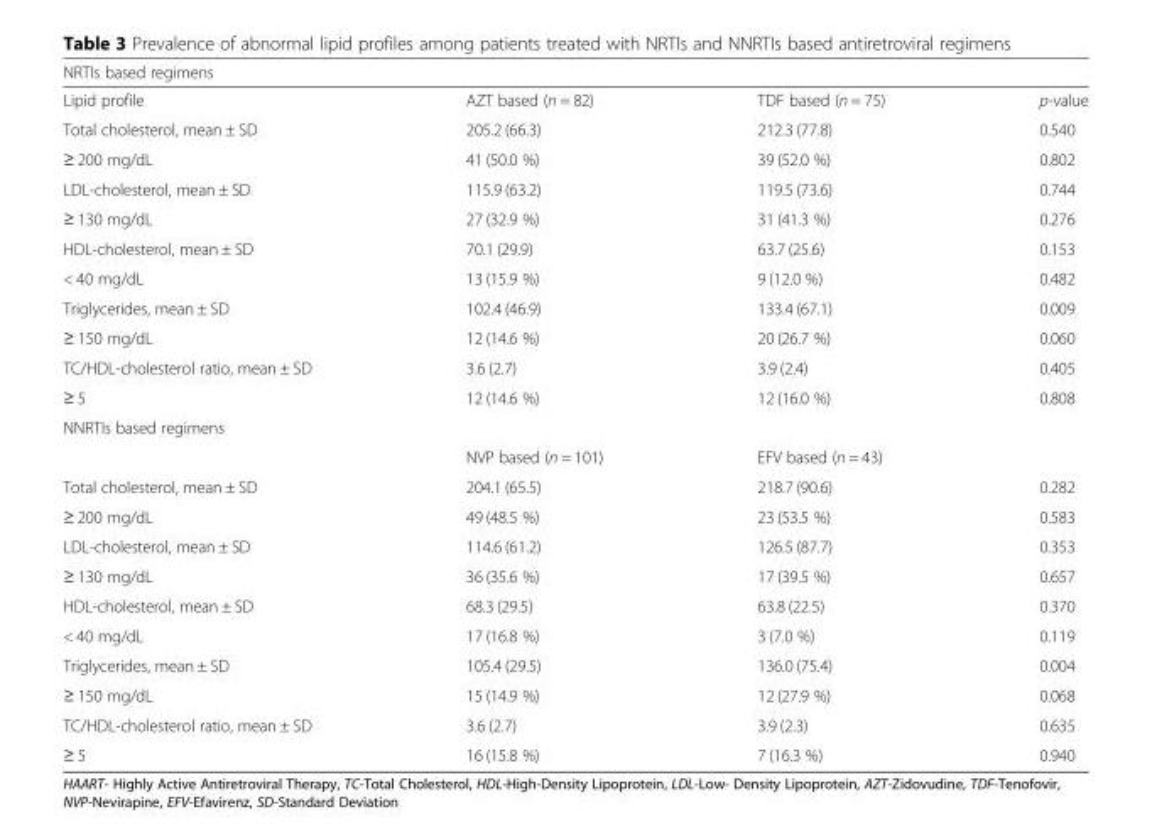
<table><thead><tr><td colspan="4">NRTIs based regimens</td></tr><tr><td>Lipid profile</td><td>AZT based (n = 82)</td><td>TDF based (n = 75)</td><td>p-value</td></tr></thead><tbody><tr><td>Total cholesterol, mean ± SD</td><td>205.2 (66.3)</td><td>212.3 (77.8)</td><td>0.540</td></tr><tr><td>≥ 200 mg/dL</td><td>41 (50.0 %)</td><td>39 (52.0 %)</td><td>0.802</td></tr><tr><td>LDL-cholesterol, mean ± SD</td><td>115.9 (63.2)</td><td>119.5 (73.6)</td><td>0.744</td></tr><tr><td>≥ 130 mg/dL</td><td>27 (32.9 %)</td><td>31 (41.3 %)</td><td>0.276</td></tr><tr><td>HDL-cholesterol, mean ± SD</td><td>70.1 (29.9)</td><td>63.7 (25.6)</td><td>0.153</td></tr><tr><td>&lt; 40 mg/dL</td><td>13 (15.9 %)</td><td>9 (12.0 %)</td><td>0.482</td></tr><tr><td>Triglycerides, mean ± SD</td><td>102.4 (46.9)</td><td>133.4 (67.1)</td><td>0.009</td></tr><tr><td>≥ 150 mg/dL</td><td>12 (14.6 %)</td><td>20 (26.7 %)</td><td>0.060</td></tr><tr><td>TC/HDL-cholesterol ratio, mean ± SD</td><td>3.6 (2.7)</td><td>3.9 (2.4)</td><td>0.405</td></tr><tr><td>≥ 5</td><td>12 (14.6 %)</td><td>12 (16.0 %)</td><td>0.808</td></tr><tr><td colspan="4">NNRTIs based regimens</td></tr><tr><td></td><td>NVP based (n = 101)</td><td>EFV based (n = 43)</td><td></td></tr><tr><td>Total cholesterol, mean ± SD</td><td>204.1 (65.5)</td><td>218.7 (90.6)</td><td>0.282</td></tr><tr><td>≥ 200 mg/dL</td><td>49 (48.5 %)</td><td>23 (53.5 %)</td><td>0.583</td></tr><tr><td>LDL-cholesterol, mean ± SD</td><td>114.6 (61.2)</td><td>126.5 (87.7)</td><td>0.353</td></tr><tr><td>≥ 130 mg/dL</td><td>36 (35.6 %)</td><td>17 (39.5 %)</td><td>0.657</td></tr><tr><td>HDL-cholesterol, mean ± SD</td><td>68.3 (29.5)</td><td>63.8 (22.5)</td><td>0.370</td></tr><tr><td>&lt; 40 mg/dL</td><td>17 (16.8 %)</td><td>3 (7.0 %)</td><td>0.119</td></tr><tr><td>Triglycerides, mean ± SD</td><td>105.4 (29.5)</td><td>136.0 (75.4)</td><td>0.004</td></tr><tr><td>≥ 150 mg/dL</td><td>15 (14.9 %)</td><td>12 (27.9 %)</td><td>0.068</td></tr><tr><td>TC/HDL-cholesterol ratio, mean ± SD</td><td>3.6 (2.7)</td><td>3.9 (2.3)</td><td>0.635</td></tr><tr><td>≥ 5</td><td>16 (15.8 %)</td><td>7 (16.3 %)</td><td>0.940</td></tr></tbody></table>